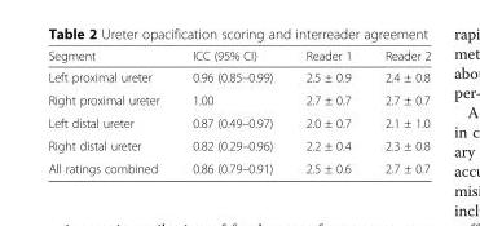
<table><thead><tr><td>Segment</td><td>ICC (95% CI)</td><td>Reader 1</td><td>Reader 2</td></tr></thead><tbody><tr><td>Left proximal ureter</td><td>0.96 (0.85–0.99)</td><td>2.5 ± 0.9</td><td>2.4 ± 0.8</td></tr><tr><td>Right proximal ureter</td><td>1.00</td><td>2.7 ± 0.7</td><td>2.7 ± 0.7</td></tr><tr><td>Left distal ureter</td><td>0.87 (0.49–0.97)</td><td>2.0 ± 0.7</td><td>2.1 ± 1.0</td></tr><tr><td>Right distal ureter</td><td>0.82 (0.29–0.96)</td><td>2.2 ± 0.4</td><td>2.3 ± 0.8</td></tr><tr><td>All ratings combined</td><td>0.86 (0.79–0.91)</td><td>2.5 ± 0.6</td><td>2.7 ± 0.7</td></tr></tbody></table>